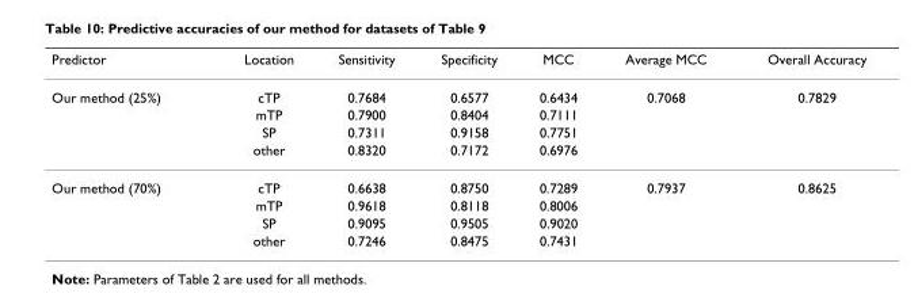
<table><thead><tr><td>Predictor</td><td>Location</td><td>Sensitivity</td><td>Specificity</td><td>MCC</td><td>Average MCC</td><td>Overall Accuracy</td></tr></thead><tbody><tr><td rowspan="4">Our method (25%)</td><td>cTP</td><td>0.7684</td><td>0.6577</td><td>0.6434</td><td>0.7068</td><td>0.7829</td></tr><tr><td>mTP</td><td>0.7900</td><td>0.8404</td><td>0.7111</td><td></td><td></td></tr><tr><td>SP</td><td>0.7311</td><td>0.9158</td><td>0.7751</td><td></td><td></td></tr><tr><td>other</td><td>0.8320</td><td>0.7172</td><td>0.6976</td><td></td><td></td></tr><tr><td rowspan="4">Our method (70%)</td><td>cTP</td><td>0.6638</td><td>0.8750</td><td>0.7289</td><td>0.7937</td><td>0.8625</td></tr><tr><td>mTP</td><td>0.9618</td><td>0.8118</td><td>0.8006</td><td></td><td></td></tr><tr><td>SP</td><td>0.9095</td><td>0.9505</td><td>0.9020</td><td></td><td></td></tr><tr><td>other</td><td>0.7246</td><td>0.8475</td><td>0.7431</td><td></td><td></td></tr></tbody></table>